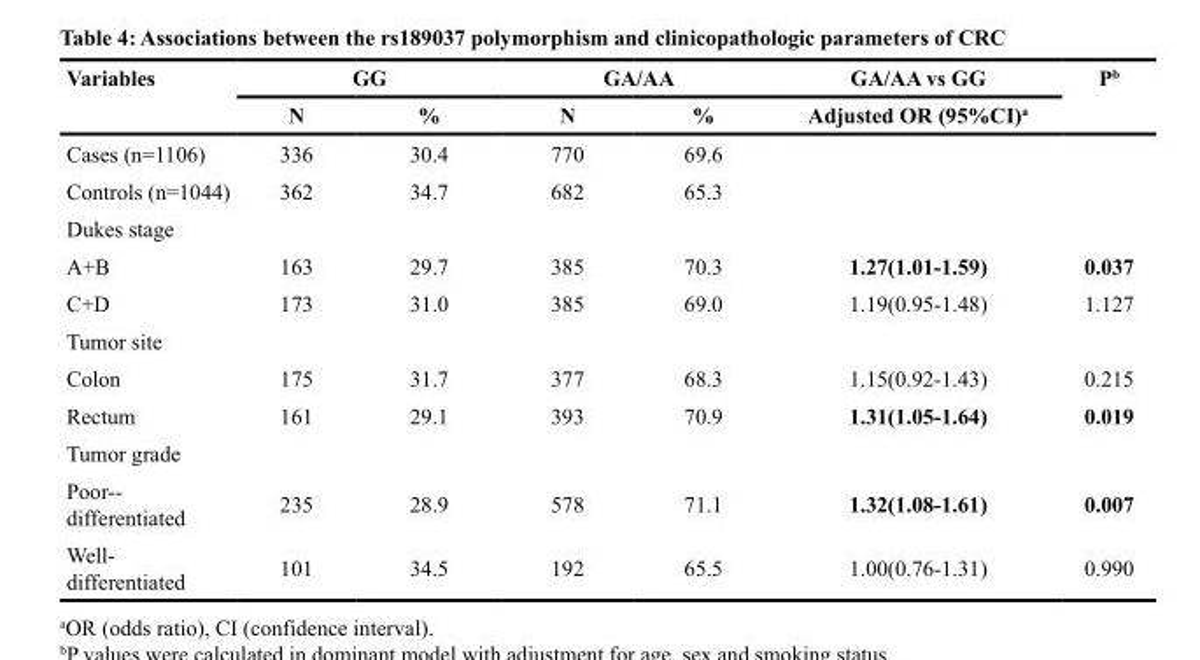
<table><thead><tr><td rowspan="2">Variables</td><td colspan="2">GG</td><td colspan="2">GA/AA</td><td rowspan="2">GA/AA vs GG Adjusted OR (95%CI)<sup>a</sup></td><td rowspan="2">P<sup>b</sup></td></tr><tr><td>N</td><td>%</td><td>N</td><td>%</td></tr></thead><tbody><tr><td>Cases (n=1106)</td><td>336</td><td>30.4</td><td>770</td><td>69.6</td><td></td><td></td></tr><tr><td>Controls (n=1044)</td><td>362</td><td>34.7</td><td>682</td><td>65.3</td><td></td><td></td></tr><tr><td colspan="7">Dukes stage</td></tr><tr><td>A+B</td><td>163</td><td>29.7</td><td>385</td><td>70.3</td><td>1.27(1.01-1.59)</td><td>0.037</td></tr><tr><td>C+D</td><td>173</td><td>31.0</td><td>385</td><td>69.0</td><td>1.19(0.95-1.48)</td><td>1.127</td></tr><tr><td colspan="7">Tumor site</td></tr><tr><td>Colon</td><td>175</td><td>31.7</td><td>377</td><td>68.3</td><td>1.15(0.92-1.43)</td><td>0.215</td></tr><tr><td>Rectum</td><td>161</td><td>29.1</td><td>393</td><td>70.9</td><td>1.31(1.05-1.64)</td><td>0.019</td></tr><tr><td colspan="7">Tumor grade</td></tr><tr><td>Poor-- differentiated</td><td>235</td><td>28.9</td><td>578</td><td>71.1</td><td>1.32(1.08-1.61)</td><td>0.007</td></tr><tr><td>Well- differentiated</td><td>101</td><td>34.5</td><td>192</td><td>65.5</td><td>1.00(0.76-1.31)</td><td>0.990</td></tr></tbody></table>